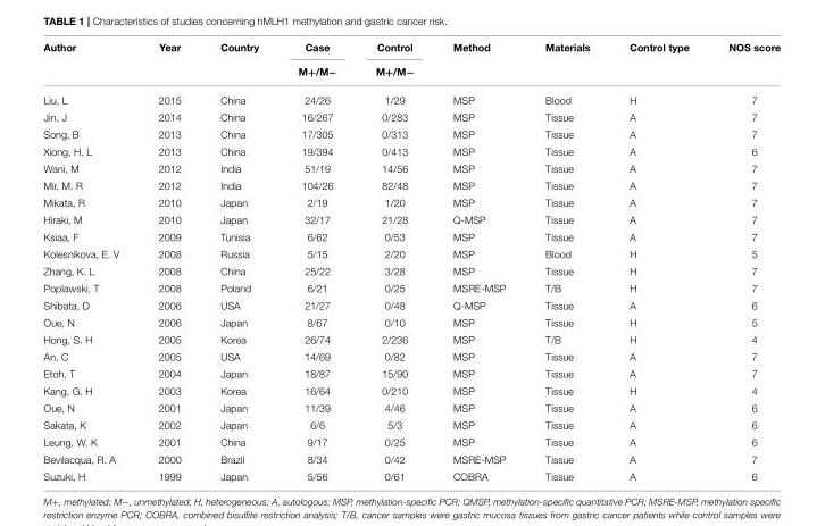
<table><thead><tr><td rowspan="2">Author</td><td rowspan="2">Year</td><td rowspan="2">Country</td><td rowspan="2">Case M+/M−</td><td rowspan="2">Control M+/M−</td><td rowspan="2">Method</td><td rowspan="2">Materials</td><td rowspan="2">Control type</td><td rowspan="2">NOS score</td></tr><tr></tr></thead><tbody><tr><td>Liu, L</td><td>2015</td><td>China</td><td>24/26</td><td>1/29</td><td>MSP</td><td>Blood</td><td>H</td><td>7</td></tr><tr><td>Jin, J</td><td>2014</td><td>China</td><td>16/267</td><td>0/283</td><td>MSP</td><td>Tissue</td><td>A</td><td>7</td></tr><tr><td>Song, B</td><td>2013</td><td>China</td><td>17/305</td><td>0/313</td><td>MSP</td><td>Tissue</td><td>A</td><td>7</td></tr><tr><td>Xiong, H. L</td><td>2013</td><td>China</td><td>19/394</td><td>0/413</td><td>MSP</td><td>Tissue</td><td>A</td><td>6</td></tr><tr><td>Wani, M</td><td>2012</td><td>India</td><td>51/19</td><td>14/56</td><td>MSP</td><td>Tissue</td><td>A</td><td>7</td></tr><tr><td>Mir, M. R</td><td>2012</td><td>India</td><td>104/26</td><td>82/48</td><td>MSP</td><td>Tissue</td><td>A</td><td>7</td></tr><tr><td>Mikata, R</td><td>2010</td><td>Japan</td><td>2/19</td><td>1/20</td><td>MSP</td><td>Tissue</td><td>A</td><td>7</td></tr><tr><td>Hiraki, M</td><td>2010</td><td>Japan</td><td>32/17</td><td>21/28</td><td>Q-MSP</td><td>Tissue</td><td>A</td><td>7</td></tr><tr><td>Ksiaa, F</td><td>2009</td><td>Tunisia</td><td>6/62</td><td>0/53</td><td>MSP</td><td>Tissue</td><td>A</td><td>7</td></tr><tr><td>Kolesnikova, E. V</td><td>2008</td><td>Russia</td><td>5/15</td><td>2/20</td><td>MSP</td><td>Blood</td><td>H</td><td>5</td></tr><tr><td>Zhang, K. L</td><td>2008</td><td>China</td><td>25/22</td><td>3/28</td><td>MSP</td><td>Tissue</td><td>H</td><td>7</td></tr><tr><td>Poplawski, T</td><td>2008</td><td>Poland</td><td>6/21</td><td>0/25</td><td>MSRE-MSP</td><td>T/B</td><td>H</td><td>7</td></tr><tr><td>Shibata, D</td><td>2006</td><td>USA</td><td>21/27</td><td>0/48</td><td>Q-MSP</td><td>Tissue</td><td>A</td><td>6</td></tr><tr><td>Oue, N</td><td>2006</td><td>Japan</td><td>8/67</td><td>0/10</td><td>MSP</td><td>Tissue</td><td>H</td><td>5</td></tr><tr><td>Hong, S. H</td><td>2005</td><td>Korea</td><td>26/74</td><td>2/236</td><td>MSP</td><td>T/B</td><td>H</td><td>4</td></tr><tr><td>An, C</td><td>2005</td><td>USA</td><td>14/69</td><td>0/82</td><td>MSP</td><td>Tissue</td><td>A</td><td>7</td></tr><tr><td>Etoh, T</td><td>2004</td><td>Japan</td><td>18/87</td><td>15/90</td><td>MSP</td><td>Tissue</td><td>A</td><td>7</td></tr><tr><td>Kang, G. H</td><td>2003</td><td>Korea</td><td>16/64</td><td>0/210</td><td>MSP</td><td>Tissue</td><td>H</td><td>4</td></tr><tr><td>Oue, N</td><td>2001</td><td>Japan</td><td>11/39</td><td>4/46</td><td>MSP</td><td>Tissue</td><td>A</td><td>6</td></tr><tr><td>Sakata, K</td><td>2002</td><td>Japan</td><td>6/6</td><td>5/3</td><td>MSP</td><td>Tissue</td><td>A</td><td>6</td></tr><tr><td>Leung, W. K</td><td>2001</td><td>China</td><td>9/17</td><td>0/25</td><td>MSP</td><td>Tissue</td><td>A</td><td>6</td></tr><tr><td>Bevilacqua, R. A</td><td>2000</td><td>Brazil</td><td>8/34</td><td>0/42</td><td>MSRE-MSP</td><td>Tissue</td><td>A</td><td>7</td></tr><tr><td>Suzuki, H</td><td>1999</td><td>Japan</td><td>5/56</td><td>0/61</td><td>COBRA</td><td>Tissue</td><td>A</td><td>6</td></tr></tbody></table>